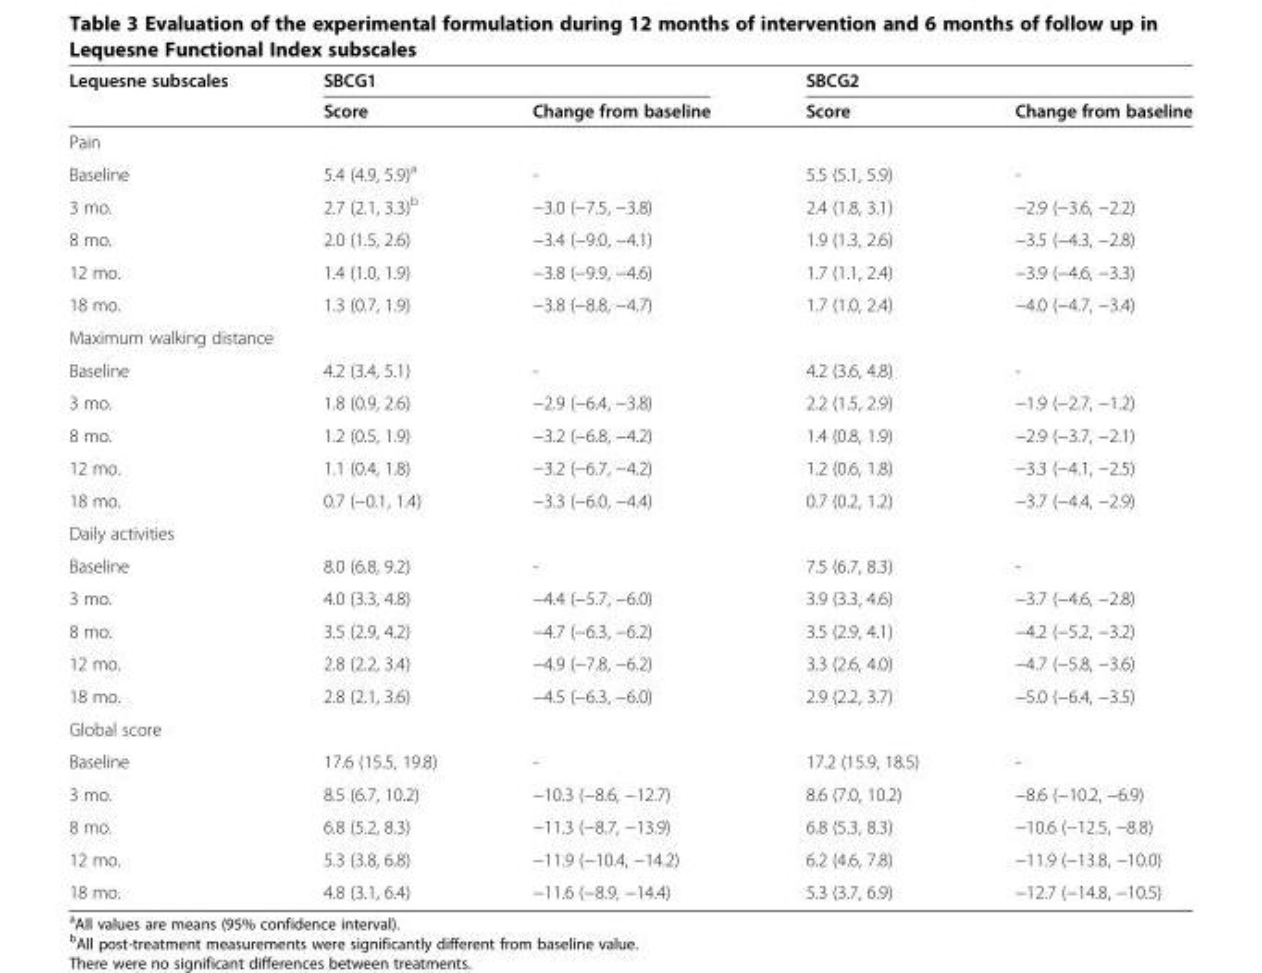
<table><thead><tr><td rowspan="2">Lequesne subscales</td><td colspan="2">SBCG1</td><td colspan="2">SBCG2</td></tr><tr><td>Score</td><td>Change from baseline</td><td>Score</td><td>Change from baseline</td></tr></thead><tbody><tr><td colspan="5">Pain</td></tr><tr><td>Baseline</td><td>5.4 (4.9, 5.9)<sup>a</sup></td><td>-</td><td>5.5 (5.1, 5.9)</td><td>-</td></tr><tr><td>3 mo.</td><td>2.7 (2.1, 3.3)<sup>b</sup></td><td>−3.0 (−7.5, −3.8)</td><td>2.4 (1.8, 3.1)</td><td>−2.9 (−3.6, −2.2)</td></tr><tr><td>8 mo.</td><td>2.0 (1.5, 2.6)</td><td>−3.4 (−9.0, −4.1)</td><td>1.9 (1.3, 2.6)</td><td>−3.5 (−4.3, −2.8)</td></tr><tr><td>12 mo.</td><td>1.4 (1.0, 1.9)</td><td>−3.8 (−9.9, −4.6)</td><td>1.7 (1.1, 2.4)</td><td>−3.9 (−4.6, −3.3)</td></tr><tr><td>18 mo.</td><td>1.3 (0.7, 1.9)</td><td>−3.8 (−8.8, −4.7)</td><td>1.7 (1.0, 2.4)</td><td>−4.0 (−4.7, −3.4)</td></tr><tr><td colspan="5">Maximum walking distance</td></tr><tr><td>Baseline</td><td>4.2 (3.4, 5.1)</td><td>-</td><td>4.2 (3.6, 4.8)</td><td>-</td></tr><tr><td>3 mo.</td><td>1.8 (0.9, 2.6)</td><td>−2.9 (−6.4, −3.8)</td><td>2.2 (1.5, 2.9)</td><td>−1.9 (−2.7, −1.2)</td></tr><tr><td>8 mo.</td><td>1.2 (0.5, 1.9)</td><td>−3.2 (−6.8, −4.2)</td><td>1.4 (0.8, 1.9)</td><td>−2.9 (−3.7, −2.1)</td></tr><tr><td>12 mo.</td><td>1.1 (0.4, 1.8)</td><td>−3.2 (−6.7, −4.2)</td><td>1.2 (0.6, 1.8)</td><td>−3.3 (−4.1, −2.5)</td></tr><tr><td>18 mo.</td><td>0.7 (−0.1, 1.4)</td><td>−3.3 (−6.0, −4.4)</td><td>0.7 (0.2, 1.2)</td><td>−3.7 (−4.4, −2.9)</td></tr><tr><td colspan="5">Daily activities</td></tr><tr><td>Baseline</td><td>8.0 (6.8, 9.2)</td><td>-</td><td>7.5 (6.7, 8.3)</td><td>-</td></tr><tr><td>3 mo.</td><td>4.0 (3.3, 4.8)</td><td>−4.4 (−5.7, −6.0)</td><td>3.9 (3.3, 4.6)</td><td>−3.7 (−4.6, −2.8)</td></tr><tr><td>8 mo.</td><td>3.5 (2.9, 4.2)</td><td>−4.7 (−6.3, −6.2)</td><td>3.5 (2.9, 4.1)</td><td>−4.2 (−5.2, −3.2)</td></tr><tr><td>12 mo.</td><td>2.8 (2.2, 3.4)</td><td>−4.9 (−7.8, −6.2)</td><td>3.3 (2.6, 4.0)</td><td>−4.7 (−5.8, −3.6)</td></tr><tr><td>18 mo.</td><td>2.8 (2.1, 3.6)</td><td>−4.5 (−6.3, −6.0)</td><td>2.9 (2.2, 3.7)</td><td>−5.0 (−6.4, −3.5)</td></tr><tr><td colspan="5">Global score</td></tr><tr><td>Baseline</td><td>17.6 (15.5, 19.8)</td><td>-</td><td>17.2 (15.9, 18.5)</td><td>-</td></tr><tr><td>3 mo.</td><td>8.5 (6.7, 10.2)</td><td>−10.3 (−8.6, −12.7)</td><td>8.6 (7.0, 10.2)</td><td>−8.6 (−10.2, −6.9)</td></tr><tr><td>8 mo.</td><td>6.8 (5.2, 8.3)</td><td>−11.3 (−8.7, −13.9)</td><td>6.8 (5.3, 8.3)</td><td>−10.6 (−12.5, −8.8)</td></tr><tr><td>12 mo.</td><td>5.3 (3.8, 6.8)</td><td>−11.9 (−10.4, −14.2)</td><td>6.2 (4.6, 7.8)</td><td>−11.9 (−13.8, −10.0)</td></tr><tr><td>18 mo.</td><td>4.8 (3.1, 6.4)</td><td>−11.6 (−8.9, −14.4)</td><td>5.3 (3.7, 6.9)</td><td>−12.7 (−14.8, −10.5)</td></tr></tbody></table>